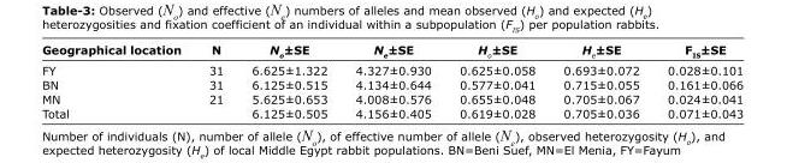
<table><thead><tr><td>Geographical location</td><td>N</td><td>N<sub>o</sub>±SE</td><td>N<sub>e</sub>±SE</td><td>H<sub>o</sub>±SE</td><td>H<sub>e</sub>±SE</td><td>F<sub>IS</sub>±SE</td></tr></thead><tbody><tr><td>FY</td><td>31</td><td>6.625±1.322</td><td>4.327±0.930</td><td>0.625±0.058</td><td>0.693±0.072</td><td>0.028±0.101</td></tr><tr><td>BN</td><td>31</td><td>6.125±0.515</td><td>4.134±0.644</td><td>0.577±0.041</td><td>0.715±0.055</td><td>0.161±0.066</td></tr><tr><td>MN</td><td>21</td><td>5.625±0.653</td><td>4.008±0.576</td><td>0.655±0.048</td><td>0.705±0.067</td><td>0.024±0.041</td></tr><tr><td>Total</td><td></td><td>6.125±0.505</td><td>4.156±0.405</td><td>0.619±0.028</td><td>0.705±0.036</td><td>0.071±0.043</td></tr></tbody></table>